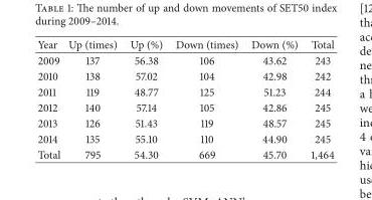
<table><thead><tr><td>Year</td><td>Up (times)</td><td>Up (%)</td><td>Down (times)</td><td>Down (%)</td><td>Total</td></tr></thead><tbody><tr><td>2009</td><td>137</td><td>56.38</td><td>106</td><td>43.62</td><td>243</td></tr><tr><td>2010</td><td>138</td><td>57.02</td><td>104</td><td>42.98</td><td>242</td></tr><tr><td>2011</td><td>119</td><td>48.77</td><td>125</td><td>51.23</td><td>244</td></tr><tr><td>2012</td><td>140</td><td>57.14</td><td>105</td><td>42.86</td><td>245</td></tr><tr><td>2013</td><td>126</td><td>51.43</td><td>119</td><td>48.57</td><td>245</td></tr><tr><td>2014</td><td>135</td><td>55.10</td><td>110</td><td>44.90</td><td>245</td></tr><tr><td>Total</td><td>795</td><td>54.30</td><td>669</td><td>45.70</td><td>1,464</td></tr></tbody></table>